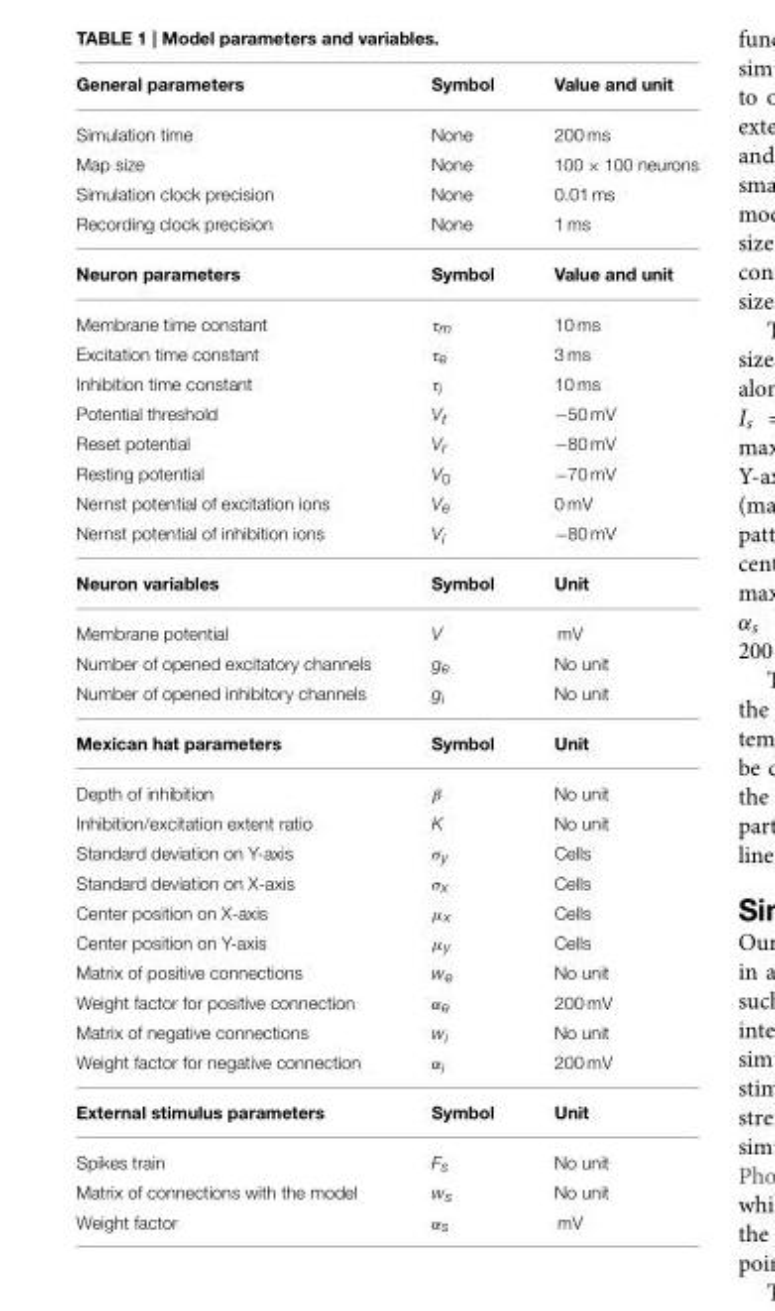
<table><thead><tr><td>General parameters</td><td>Symbol</td><td>Value and unit</td></tr></thead><tbody><tr><td>Simulation time</td><td>None</td><td>200 ms</td></tr><tr><td>Map size</td><td>None</td><td>100 × 100 neurons</td></tr><tr><td>Simulation clock precision</td><td>None</td><td>0.01 ms</td></tr><tr><td>Recording clock precision</td><td>None</td><td>1 ms</td></tr><tr><td>Neuron parameters</td><td>Symbol</td><td>Value and unit</td></tr><tr><td>Membrane time constant</td><td>τ<sub>m</sub></td><td>10 ms</td></tr><tr><td>Excitation time constant</td><td>τ<sub>e</sub></td><td>3 ms</td></tr><tr><td>Inhibition time constant</td><td>τ<sub>i</sub></td><td>10 ms</td></tr><tr><td>Potential threshold</td><td>Vt</td><td>−50 mV</td></tr><tr><td>Reset potential</td><td>Vr</td><td>−80 mV</td></tr><tr><td>Resting potential</td><td>V<sub>0</sub></td><td>−70 mV</td></tr><tr><td>Nernst potential of excitation ions</td><td>Ve</td><td>0 mV</td></tr><tr><td>Nernst potential of inhibition ions</td><td>Vi</td><td>−80 mV</td></tr><tr><td>Neuron variables</td><td>Symbol</td><td>Unit</td></tr><tr><td>Membrane potential</td><td>V</td><td>mV</td></tr><tr><td>Number of opened excitatory channels</td><td>ge</td><td>No unit</td></tr><tr><td>Number of opened inhibitory channels</td><td>gi</td><td>No unit</td></tr><tr><td>Mexican hat parameters</td><td>Symbol</td><td>Unit</td></tr><tr><td>Depth of inhibition</td><td>β</td><td>No unit</td></tr><tr><td>Inhibition/excitation extent ratio</td><td>K</td><td>No unit</td></tr><tr><td>Standard deviation on Y-axis</td><td>σ<sub>y</sub></td><td>Cells</td></tr><tr><td>Standard deviation on X-axis</td><td>σ<sub>x</sub></td><td>Cells</td></tr><tr><td>Center position on X-axis</td><td>µ<sub>x</sub></td><td>Cells</td></tr><tr><td>Center position on Y-axis</td><td>µ<sub>y</sub></td><td>Cells</td></tr><tr><td>Matrix of positive connections</td><td>we</td><td>No unit</td></tr><tr><td>Weight factor for positive connection</td><td>α<sub>e</sub></td><td>200 mV</td></tr><tr><td>Matrix of negative connections</td><td>wi</td><td>No unit</td></tr><tr><td>Weight factor for negative connection</td><td>α<sub>i</sub></td><td>200 mV</td></tr><tr><td>External stimulus parameters</td><td>Symbol</td><td>Unit</td></tr><tr><td>Spikes train</td><td>Fs</td><td>No unit</td></tr><tr><td>Matrix of connections with the model</td><td>ws</td><td>No unit</td></tr><tr><td>Weight factor</td><td>α<sub>s</sub></td><td>mV</td></tr></tbody></table>